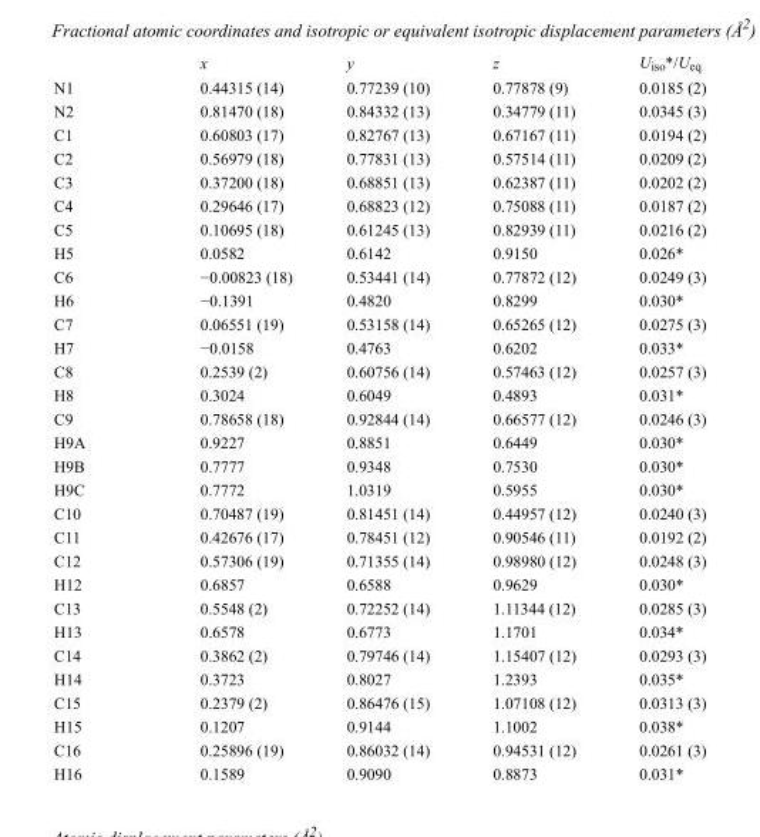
<table><thead><tr><td></td><td>x</td><td>y</td><td>z</td><td>U<sub>iso</sub>*/U<sub>eq</sub></td></tr></thead><tbody><tr><td>N1</td><td>0.44315 (14)</td><td>0.77239 (10)</td><td>0.77878 (9)</td><td>0.0185 (2)</td></tr><tr><td>N2</td><td>0.81470 (18)</td><td>0.84332 (13)</td><td>0.34779 (11)</td><td>0.0345 (3)</td></tr><tr><td>C1</td><td>0.60803 (17)</td><td>0.82767 (13)</td><td>0.67167 (11)</td><td>0.0194 (2)</td></tr><tr><td>C2</td><td>0.56979 (18)</td><td>0.77831 (13)</td><td>0.57514 (11)</td><td>0.0209 (2)</td></tr><tr><td>C3</td><td>0.37200 (18)</td><td>0.68851 (13)</td><td>0.62387 (11)</td><td>0.0202 (2)</td></tr><tr><td>C4</td><td>0.29646 (17)</td><td>0.68823 (12)</td><td>0.75088 (11)</td><td>0.0187 (2)</td></tr><tr><td>C5</td><td>0.10695 (18)</td><td>0.61245 (13)</td><td>0.82939 (11)</td><td>0.0216 (2)</td></tr><tr><td>H5</td><td>0.0582</td><td>0.6142</td><td>0.9150</td><td>0.026*</td></tr><tr><td>C6</td><td>−0.00823 (18)</td><td>0.53441 (14)</td><td>0.77872 (12)</td><td>0.0249 (3)</td></tr><tr><td>H6</td><td>−0.1391</td><td>0.4820</td><td>0.8299</td><td>0.030*</td></tr><tr><td>C7</td><td>0.06551 (19)</td><td>0.53158 (14)</td><td>0.65265 (12)</td><td>0.0275 (3)</td></tr><tr><td>H7</td><td>−0.0158</td><td>0.4763</td><td>0.6202</td><td>0.033*</td></tr><tr><td>C8</td><td>0.2539 (2)</td><td>0.60756 (14)</td><td>0.57463 (12)</td><td>0.0257 (3)</td></tr><tr><td>H8</td><td>0.3024</td><td>0.6049</td><td>0.4893</td><td>0.031*</td></tr><tr><td>C9</td><td>0.78658 (18)</td><td>0.92844 (14)</td><td>0.66577 (12)</td><td>0.0246 (3)</td></tr><tr><td>H9A</td><td>0.9227</td><td>0.8851</td><td>0.6449</td><td>0.030*</td></tr><tr><td>H9B</td><td>0.7777</td><td>0.9348</td><td>0.7530</td><td>0.030*</td></tr><tr><td>H9C</td><td>0.7772</td><td>1.0319</td><td>0.5955</td><td>0.030*</td></tr><tr><td>C10</td><td>0.70487 (19)</td><td>0.81451 (14)</td><td>0.44957 (12)</td><td>0.0240 (3)</td></tr><tr><td>C11</td><td>0.42676 (17)</td><td>0.78451 (12)</td><td>0.90546 (11)</td><td>0.0192 (2)</td></tr><tr><td>C12</td><td>0.57306 (19)</td><td>0.71355 (14)</td><td>0.98980 (12)</td><td>0.0248 (3)</td></tr><tr><td>H12</td><td>0.6857</td><td>0.6588</td><td>0.9629</td><td>0.030*</td></tr><tr><td>C13</td><td>0.5548 (2)</td><td>0.72252 (14)</td><td>1.11344 (12)</td><td>0.0285 (3)</td></tr><tr><td>H13</td><td>0.6578</td><td>0.6773</td><td>1.1701</td><td>0.034*</td></tr><tr><td>C14</td><td>0.3862 (2)</td><td>0.79746 (14)</td><td>1.15407 (12)</td><td>0.0293 (3)</td></tr><tr><td>H14</td><td>0.3723</td><td>0.8027</td><td>1.2393</td><td>0.035*</td></tr><tr><td>C15</td><td>0.2379 (2)</td><td>0.86476 (15)</td><td>1.07108 (12)</td><td>0.0313 (3)</td></tr><tr><td>H15</td><td>0.1207</td><td>0.9144</td><td>1.1002</td><td>0.038*</td></tr><tr><td>C16</td><td>0.25896 (19)</td><td>0.86032 (14)</td><td>0.94531 (12)</td><td>0.0261 (3)</td></tr><tr><td>H16</td><td>0.1589</td><td>0.9090</td><td>0.8873</td><td>0.031*</td></tr></tbody></table>